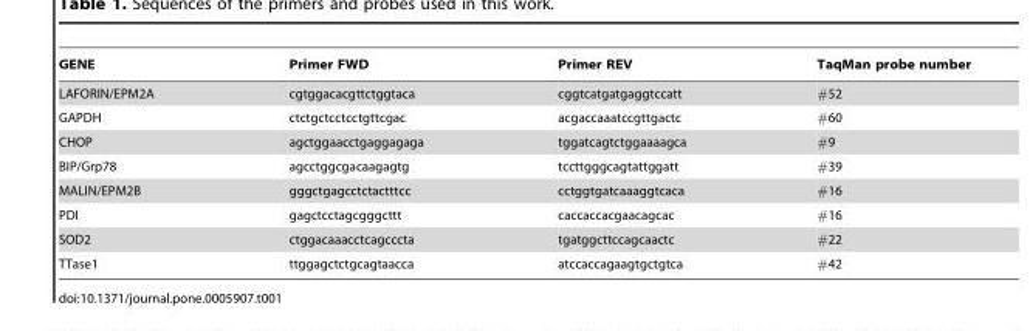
<table><thead><tr><td>GENE</td><td>Primer FWD</td><td>Primer REV</td><td>TaqMan probe number</td></tr></thead><tbody><tr><td>LAFORIN/EPM2A</td><td>cgtggacacgttctggtaca</td><td>cggtcatgatgaggtccatt</td><td>#52</td></tr><tr><td>GAPDH</td><td>ctctgctcctcctgttcgac</td><td>acgaccaaatccgttgactc</td><td>#60</td></tr><tr><td>CHOP</td><td>agctggaacctgaggagaga</td><td>tggatcagtctggaaaagca</td><td>#9</td></tr><tr><td>BIP/Grp78</td><td>agcctggcgacaagagtg</td><td>tccttgggcagtattggatt</td><td>#39</td></tr><tr><td>MALIN/EPM2B</td><td>gggctgagcctctactttcc</td><td>cctggtgatcaaaggtcaca</td><td>#16</td></tr><tr><td>PDI</td><td>gagctcctagcgggcttt</td><td>caccaccacgaacagcac</td><td>#16</td></tr><tr><td>SOD2</td><td>ctggacaaacctcagcccta</td><td>tgatggcttccagcaactc</td><td>#22</td></tr><tr><td>TTase1</td><td>ttggagctctgcagtaacca</td><td>atccaccagaagtgctgtca</td><td>#42</td></tr></tbody></table>